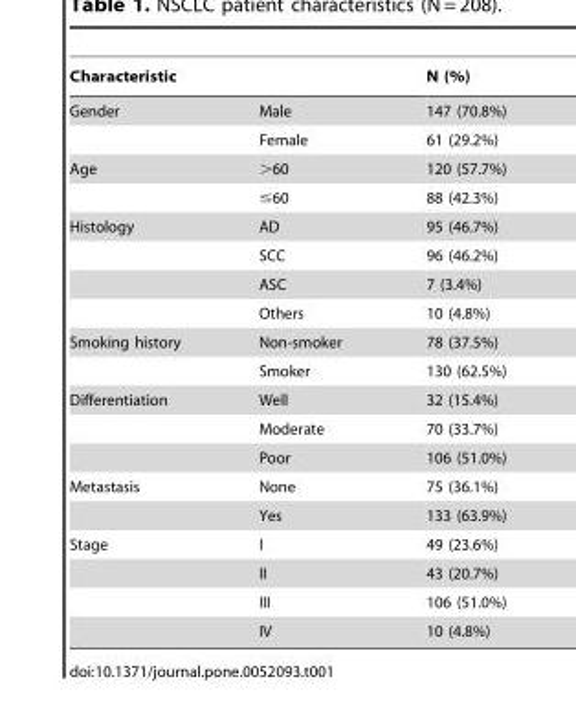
<table><thead><tr><td colspan="2">Characteristic</td><td rowspan="2">N (%) 147 (70.8%)</td></tr><tr><td>Gender</td><td>Male</td></tr></thead><tbody><tr><td></td><td>Female</td><td>61 (29.2%)</td></tr><tr><td rowspan="2">Age</td><td>&gt;60</td><td>120 (57.7%)</td></tr><tr><td>≤60</td><td>88 (42.3%)</td></tr><tr><td rowspan="4">Histology</td><td>AD</td><td>95 (46.7%)</td></tr><tr><td>SCC</td><td>96 (46.2%)</td></tr><tr><td>ASC</td><td>7 (3.4%)</td></tr><tr><td>Others</td><td>10 (4.8%)</td></tr><tr><td rowspan="2">Smoking history</td><td>Non-smoker</td><td>78 (37.5%)</td></tr><tr><td>Smoker</td><td>130 (62.5%)</td></tr><tr><td rowspan="3">Differentiation</td><td>Well</td><td>32 (15.4%)</td></tr><tr><td>Moderate</td><td>70 (33.7%)</td></tr><tr><td>Poor</td><td>106 (51.0%)</td></tr><tr><td rowspan="2">Metastasis</td><td>None</td><td>75 (36.1%)</td></tr><tr><td>Yes</td><td>133 (63.9%)</td></tr><tr><td rowspan="4">Stage</td><td>I</td><td>49 (23.6%)</td></tr><tr><td>II</td><td>43 (20.7%)</td></tr><tr><td>III</td><td>106 (51.0%)</td></tr><tr><td>IV</td><td>10 (4.8%)</td></tr></tbody></table>